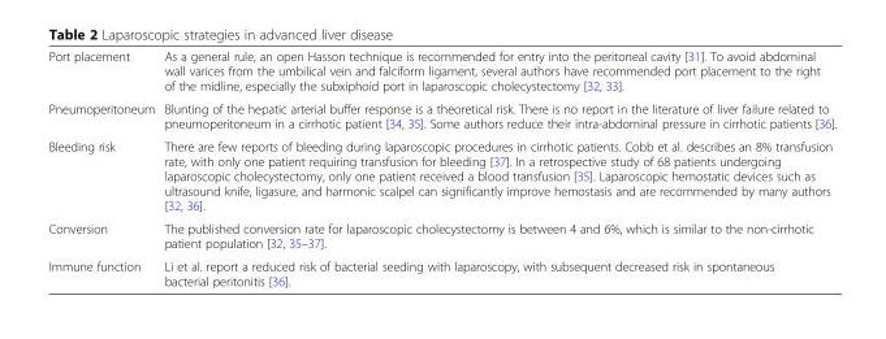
<table><tbody><tr><td>Port placement</td><td>As a general rule, an open Hasson technique is recommended for entry into the peritoneal cavity [31]. To avoid abdominal wall varices from the umbilical vein and falciform ligament, several authors have recommended port placement to the right of the midline, especially the subxiphoid port in laparoscopic cholecystectomy [32, 33].</td></tr><tr><td>Pneumoperitoneum</td><td>Blunting of the hepatic arterial buffer response is a theoretical risk. There is no report in the literature of liver failure related to pneumoperitoneum in a cirrhotic patient [34, 35]. Some authors reduce their intra-abdominal pressure in cirrhotic patients [36].</td></tr><tr><td>Bleeding risk</td><td>There are few reports of bleeding during laparoscopic procedures in cirrhotic patients. Cobb et al. describes an 8% transfusion rate, with only one patient requiring transfusion for bleeding [37]. In a retrospective study of 68 patients undergoing laparoscopic cholecystectomy, only one patient received a blood transfusion [35]. Laparoscopic hemostatic devices such as ultrasound knife, ligasure, and harmonic scalpel can significantly improve hemostasis and are recommended by many authors [32, 36].</td></tr><tr><td>Conversion</td><td>The published conversion rate for laparoscopic cholecystectomy is between 4 and 6%, which is similar to the non-cirrhotic patient population [32, 35–37].</td></tr><tr><td>Immune function</td><td>Li et al. report a reduced risk of bacterial seeding with laparoscopy, with subsequent decreased risk in spontaneous bacterial peritonitis [36].</td></tr></tbody></table>